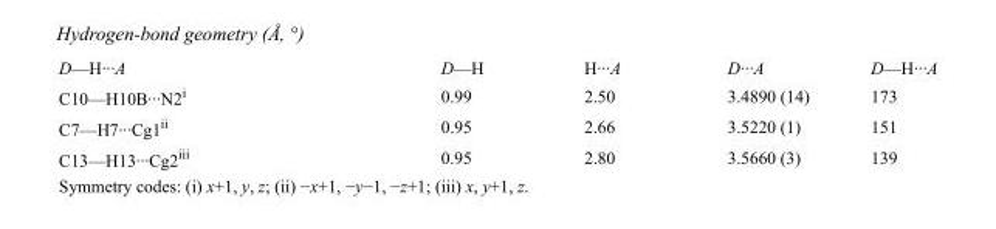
<table><tbody><tr><td>D—H···A</td><td>D—H</td><td>H···A</td><td>D···A</td><td>D—H···A</td></tr><tr><td>C10—H10B···N2<sup>i</sup></td><td>0.99</td><td>2.50</td><td>3.4890 (14)</td><td>173</td></tr><tr><td>C7—H7···Cg1<sup>ii</sup></td><td>0.95</td><td>2.66</td><td>3.5220 (1)</td><td>151</td></tr><tr><td>C13—H13···Cg2<sup>iii</sup></td><td>0.95</td><td>2.80</td><td>3.5660 (3)</td><td>139</td></tr></tbody></table>